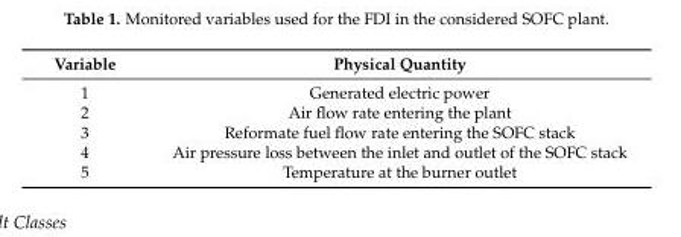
<table><thead><tr><td>Variable</td><td>Physical Quantity</td></tr></thead><tbody><tr><td>1</td><td>Generated electric power</td></tr><tr><td>2</td><td>Air flow rate entering the plant</td></tr><tr><td>3</td><td>Reformate fuel flow rate entering the SOFC stack</td></tr><tr><td>4</td><td>Air pressure loss between the inlet and outlet of the SOFC stack</td></tr><tr><td>5</td><td>Temperature at the burner outlet</td></tr></tbody></table>